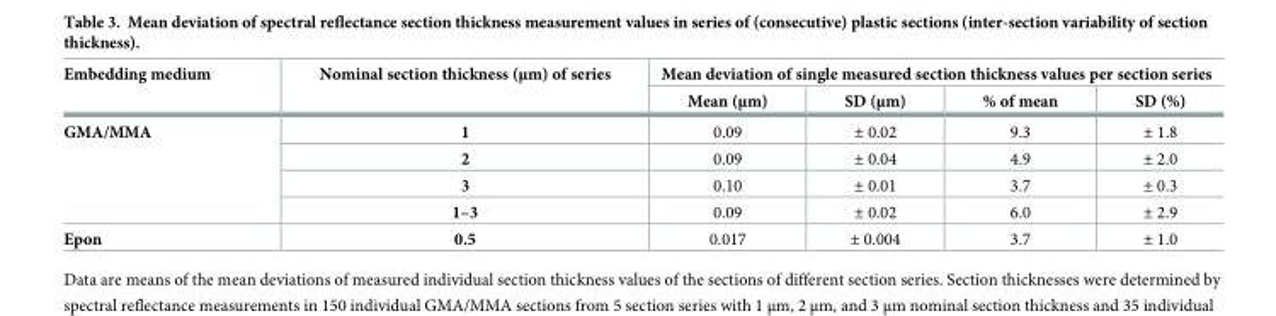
<table><thead><tr><td rowspan="2">Embedding medium</td><td rowspan="2">Nominal section thickness (μm) of series</td><td colspan="4">Mean deviation of single measured section thickness values per section series</td></tr><tr><td>Mean (μm)</td><td>SD (μm)</td><td>% of mean</td><td>SD (%)</td></tr></thead><tbody><tr><td rowspan="4">GMA/MMA</td><td>1</td><td>0.09</td><td>± 0.02</td><td>9.3</td><td>± 1.8</td></tr><tr><td>2</td><td>0.09</td><td>± 0.04</td><td>4.9</td><td>± 2.0</td></tr><tr><td>3</td><td>0.10</td><td>± 0.01</td><td>3.7</td><td>± 0.3</td></tr><tr><td>1–3</td><td>0.09</td><td>± 0.02</td><td>6.0</td><td>± 2.9</td></tr><tr><td>Epon</td><td>0.5</td><td>0.017</td><td>± 0.004</td><td>3.7</td><td>± 1.0</td></tr></tbody></table>